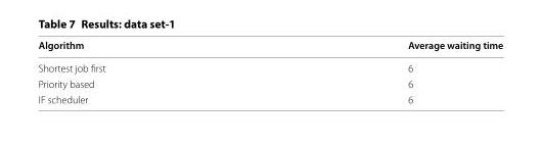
<table><thead><tr><td>Algorithm</td><td>Average waiting time</td></tr></thead><tbody><tr><td>Shortest job first</td><td>6</td></tr><tr><td>Priority based</td><td>6</td></tr><tr><td>IF scheduler</td><td>6</td></tr></tbody></table>